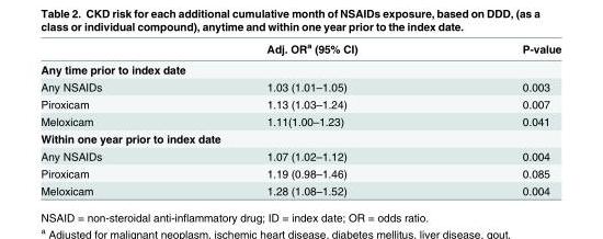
<table><thead><tr><td></td><td>Adj. OR<sup>a</sup> (95% CI)</td><td>P-value</td></tr></thead><tbody><tr><td colspan="3">Any time prior to index date</td></tr><tr><td>Any NSAIDs</td><td>1.03 (1.01–1.05)</td><td>0.003</td></tr><tr><td>Piroxicam</td><td>1.13 (1.03–1.24)</td><td>0.007</td></tr><tr><td>Meloxicam</td><td>1.11(1.00–1.23)</td><td>0.041</td></tr><tr><td colspan="3">Within one year prior to index date</td></tr><tr><td>Any NSAIDs</td><td>1.07 (1.02–1.12)</td><td>0.004</td></tr><tr><td>Piroxicam</td><td>1.19 (0.98–1.46)</td><td>0.085</td></tr><tr><td>Meloxicam</td><td>1.28 (1.08–1.52)</td><td>0.004</td></tr></tbody></table>